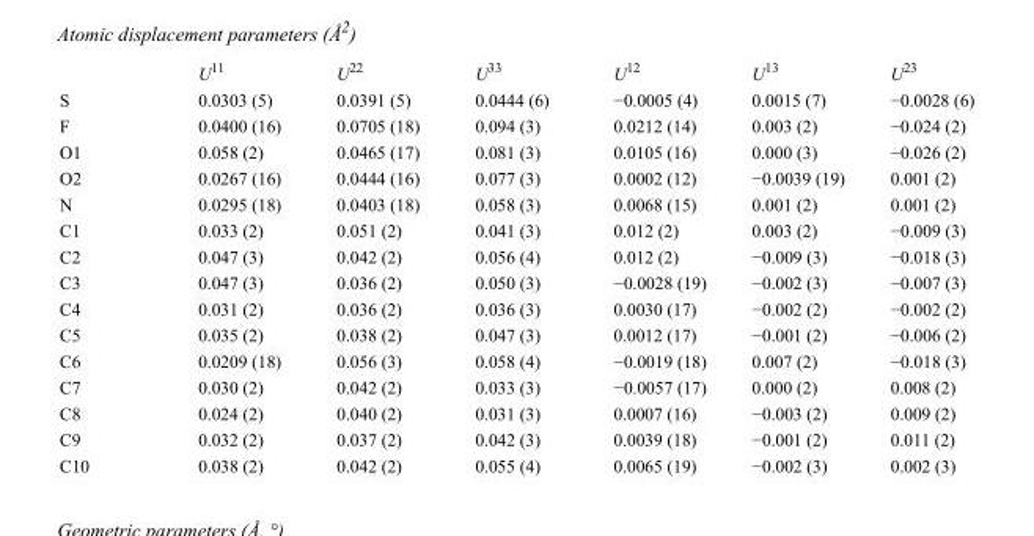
<table><thead><tr><td></td><td>U<sup>11</sup></td><td>U<sup>22</sup></td><td>U<sup>33</sup></td><td>U<sup>12</sup></td><td>U<sup>13</sup></td><td>U<sup>23</sup></td></tr></thead><tbody><tr><td>S</td><td>0.0303 (5)</td><td>0.0391 (5)</td><td>0.0444 (6)</td><td>−0.0005 (4)</td><td>0.0015 (7)</td><td>−0.0028 (6)</td></tr><tr><td>F</td><td>0.0400 (16)</td><td>0.0705 (18)</td><td>0.094 (3)</td><td>0.0212 (14)</td><td>0.003 (2)</td><td>−0.024 (2)</td></tr><tr><td>O1</td><td>0.058 (2)</td><td>0.0465 (17)</td><td>0.081 (3)</td><td>0.0105 (16)</td><td>0.000 (3)</td><td>−0.026 (2)</td></tr><tr><td>O2</td><td>0.0267 (16)</td><td>0.0444 (16)</td><td>0.077 (3)</td><td>0.0002 (12)</td><td>−0.0039 (19)</td><td>0.001 (2)</td></tr><tr><td>N</td><td>0.0295 (18)</td><td>0.0403 (18)</td><td>0.058 (3)</td><td>0.0068 (15)</td><td>0.001 (2)</td><td>0.001 (2)</td></tr><tr><td>C1</td><td>0.033 (2)</td><td>0.051 (2)</td><td>0.041 (3)</td><td>0.012 (2)</td><td>0.003 (2)</td><td>−0.009 (3)</td></tr><tr><td>C2</td><td>0.047 (3)</td><td>0.042 (2)</td><td>0.056 (4)</td><td>0.012 (2)</td><td>−0.009 (3)</td><td>−0.018 (3)</td></tr><tr><td>C3</td><td>0.047 (3)</td><td>0.036 (2)</td><td>0.050 (3)</td><td>−0.0028 (19)</td><td>−0.002 (3)</td><td>−0.007 (3)</td></tr><tr><td>C4</td><td>0.031 (2)</td><td>0.036 (2)</td><td>0.036 (3)</td><td>0.0030 (17)</td><td>−0.002 (2)</td><td>−0.002 (2)</td></tr><tr><td>C5</td><td>0.035 (2)</td><td>0.038 (2)</td><td>0.047 (3)</td><td>0.0012 (17)</td><td>−0.001 (2)</td><td>−0.006 (2)</td></tr><tr><td>C6</td><td>0.0209 (18)</td><td>0.056 (3)</td><td>0.058 (4)</td><td>−0.0019 (18)</td><td>0.007 (2)</td><td>−0.018 (3)</td></tr><tr><td>C7</td><td>0.030 (2)</td><td>0.042 (2)</td><td>0.033 (3)</td><td>−0.0057 (17)</td><td>0.000 (2)</td><td>0.008 (2)</td></tr><tr><td>C8</td><td>0.024 (2)</td><td>0.040 (2)</td><td>0.031 (3)</td><td>0.0007 (16)</td><td>−0.003 (2)</td><td>0.009 (2)</td></tr><tr><td>C9</td><td>0.032 (2)</td><td>0.037 (2)</td><td>0.042 (3)</td><td>0.0039 (18)</td><td>−0.001 (2)</td><td>0.011 (2)</td></tr><tr><td>C10</td><td>0.038 (2)</td><td>0.042 (2)</td><td>0.055 (4)</td><td>0.0065 (19)</td><td>−0.002 (3)</td><td>0.002 (3)</td></tr></tbody></table>